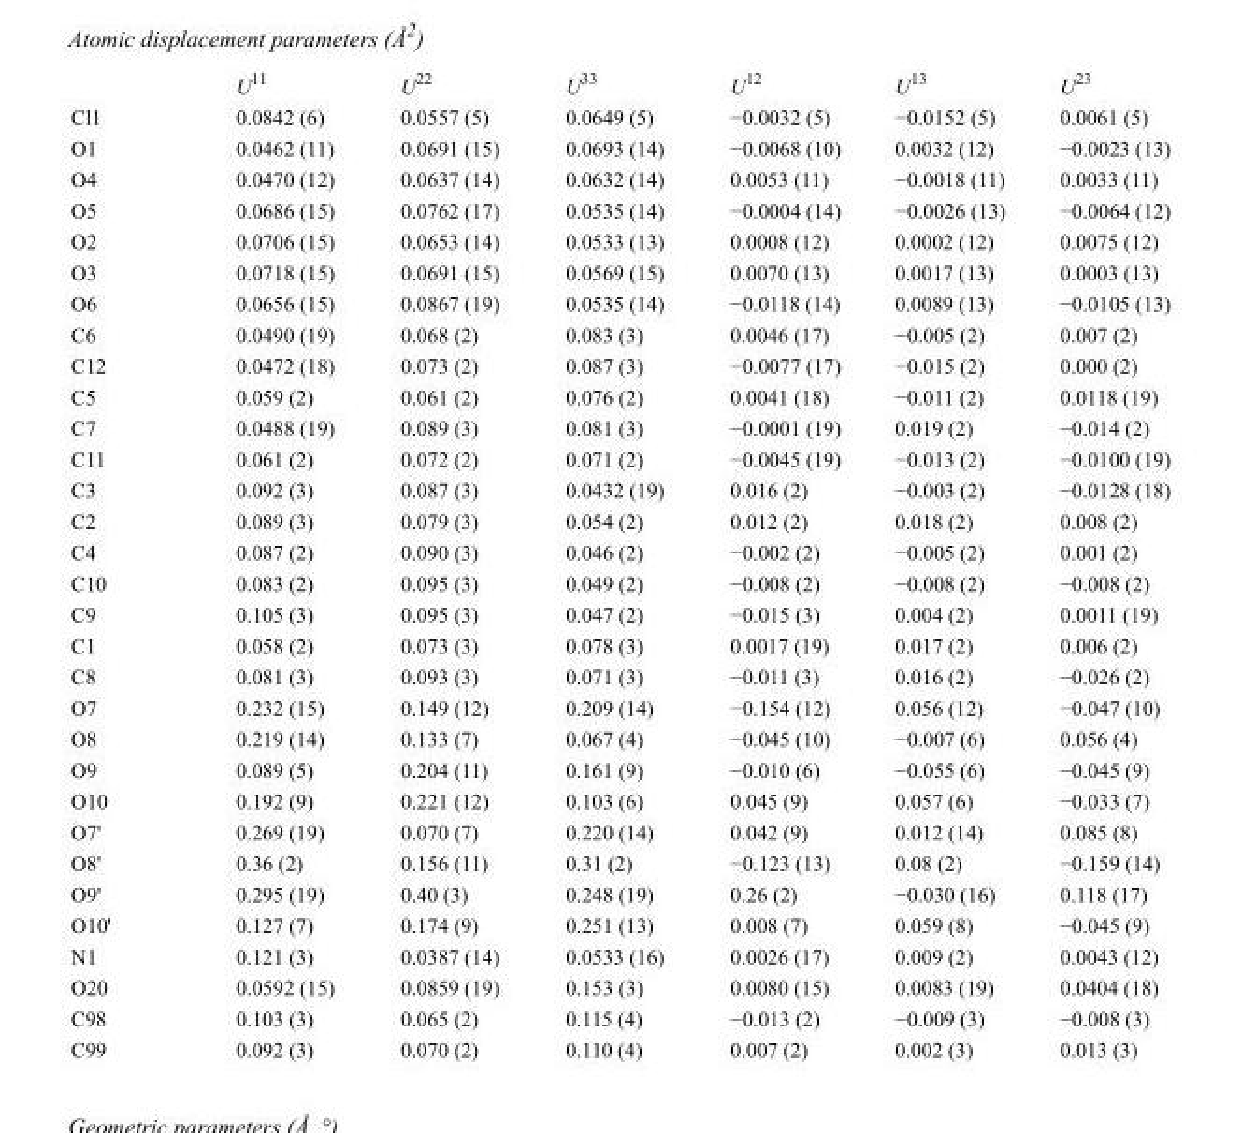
<table><thead><tr><td></td><td>U<sup>11</sup></td><td>U<sup>22</sup></td><td>U<sup>33</sup></td><td>U<sup>12</sup></td><td>U<sup>13</sup></td><td>U<sup>23</sup></td></tr></thead><tbody><tr><td>Cl1</td><td>0.0842 (6)</td><td>0.0557 (5)</td><td>0.0649 (5)</td><td>−0.0032 (5)</td><td>−0.0152 (5)</td><td>0.0061 (5)</td></tr><tr><td>O1</td><td>0.0462 (11)</td><td>0.0691 (15)</td><td>0.0693 (14)</td><td>−0.0068 (10)</td><td>0.0032 (12)</td><td>−0.0023 (13)</td></tr><tr><td>O4</td><td>0.0470 (12)</td><td>0.0637 (14)</td><td>0.0632 (14)</td><td>0.0053 (11)</td><td>−0.0018 (11)</td><td>0.0033 (11)</td></tr><tr><td>O5</td><td>0.0686 (15)</td><td>0.0762 (17)</td><td>0.0535 (14)</td><td>−0.0004 (14)</td><td>−0.0026 (13)</td><td>−0.0064 (12)</td></tr><tr><td>O2</td><td>0.0706 (15)</td><td>0.0653 (14)</td><td>0.0533 (13)</td><td>0.0008 (12)</td><td>0.0002 (12)</td><td>0.0075 (12)</td></tr><tr><td>O3</td><td>0.0718 (15)</td><td>0.0691 (15)</td><td>0.0569 (15)</td><td>0.0070 (13)</td><td>0.0017 (13)</td><td>0.0003 (13)</td></tr><tr><td>O6</td><td>0.0656 (15)</td><td>0.0867 (19)</td><td>0.0535 (14)</td><td>−0.0118 (14)</td><td>0.0089 (13)</td><td>−0.0105 (13)</td></tr><tr><td>C6</td><td>0.0490 (19)</td><td>0.068 (2)</td><td>0.083 (3)</td><td>0.0046 (17)</td><td>−0.005 (2)</td><td>0.007 (2)</td></tr><tr><td>C12</td><td>0.0472 (18)</td><td>0.073 (2)</td><td>0.087 (3)</td><td>−0.0077 (17)</td><td>−0.015 (2)</td><td>0.000 (2)</td></tr><tr><td>C5</td><td>0.059 (2)</td><td>0.061 (2)</td><td>0.076 (2)</td><td>0.0041 (18)</td><td>−0.011 (2)</td><td>0.0118 (19)</td></tr><tr><td>C7</td><td>0.0488 (19)</td><td>0.089 (3)</td><td>0.081 (3)</td><td>−0.0001 (19)</td><td>0.019 (2)</td><td>−0.014 (2)</td></tr><tr><td>C11</td><td>0.061 (2)</td><td>0.072 (2)</td><td>0.071 (2)</td><td>−0.0045 (19)</td><td>−0.013 (2)</td><td>−0.0100 (19)</td></tr><tr><td>C3</td><td>0.092 (3)</td><td>0.087 (3)</td><td>0.0432 (19)</td><td>0.016 (2)</td><td>−0.003 (2)</td><td>−0.0128 (18)</td></tr><tr><td>C2</td><td>0.089 (3)</td><td>0.079 (3)</td><td>0.054 (2)</td><td>0.012 (2)</td><td>0.018 (2)</td><td>0.008 (2)</td></tr><tr><td>C4</td><td>0.087 (2)</td><td>0.090 (3)</td><td>0.046 (2)</td><td>−0.002 (2)</td><td>−0.005 (2)</td><td>0.001 (2)</td></tr><tr><td>C10</td><td>0.083 (2)</td><td>0.095 (3)</td><td>0.049 (2)</td><td>−0.008 (2)</td><td>−0.008 (2)</td><td>−0.008 (2)</td></tr><tr><td>C9</td><td>0.105 (3)</td><td>0.095 (3)</td><td>0.047 (2)</td><td>−0.015 (3)</td><td>0.004 (2)</td><td>0.0011 (19)</td></tr><tr><td>C1</td><td>0.058 (2)</td><td>0.073 (3)</td><td>0.078 (3)</td><td>0.0017 (19)</td><td>0.017 (2)</td><td>0.006 (2)</td></tr><tr><td>C8</td><td>0.081 (3)</td><td>0.093 (3)</td><td>0.071 (3)</td><td>−0.011 (3)</td><td>0.016 (2)</td><td>−0.026 (2)</td></tr><tr><td>O7</td><td>0.232 (15)</td><td>0.149 (12)</td><td>0.209 (14)</td><td>−0.154 (12)</td><td>0.056 (12)</td><td>−0.047 (10)</td></tr><tr><td>O8</td><td>0.219 (14)</td><td>0.133 (7)</td><td>0.067 (4)</td><td>−0.045 (10)</td><td>−0.007 (6)</td><td>0.056 (4)</td></tr><tr><td>O9</td><td>0.089 (5)</td><td>0.204 (11)</td><td>0.161 (9)</td><td>−0.010 (6)</td><td>−0.055 (6)</td><td>−0.045 (9)</td></tr><tr><td>O10</td><td>0.192 (9)</td><td>0.221 (12)</td><td>0.103 (6)</td><td>0.045 (9)</td><td>0.057 (6)</td><td>−0.033 (7)</td></tr><tr><td>O7&#x27;</td><td>0.269 (19)</td><td>0.070 (7)</td><td>0.220 (14)</td><td>0.042 (9)</td><td>0.012 (14)</td><td>0.085 (8)</td></tr><tr><td>O8&#x27;</td><td>0.36 (2)</td><td>0.156 (11)</td><td>0.31 (2)</td><td>−0.123 (13)</td><td>0.08 (2)</td><td>−0.159 (14)</td></tr><tr><td>O9&#x27;</td><td>0.295 (19)</td><td>0.40 (3)</td><td>0.248 (19)</td><td>0.26 (2)</td><td>−0.030 (16)</td><td>0.118 (17)</td></tr><tr><td>O10&#x27;</td><td>0.127 (7)</td><td>0.174 (9)</td><td>0.251 (13)</td><td>0.008 (7)</td><td>0.059 (8)</td><td>−0.045 (9)</td></tr><tr><td>N1</td><td>0.121 (3)</td><td>0.0387 (14)</td><td>0.0533 (16)</td><td>0.0026 (17)</td><td>0.009 (2)</td><td>0.0043 (12)</td></tr><tr><td>O20</td><td>0.0592 (15)</td><td>0.0859 (19)</td><td>0.153 (3)</td><td>0.0080 (15)</td><td>0.0083 (19)</td><td>0.0404 (18)</td></tr><tr><td>C98</td><td>0.103 (3)</td><td>0.065 (2)</td><td>0.115 (4)</td><td>−0.013 (2)</td><td>−0.009 (3)</td><td>−0.008 (3)</td></tr><tr><td>C99</td><td>0.092 (3)</td><td>0.070 (2)</td><td>0.110 (4)</td><td>0.007 (2)</td><td>0.002 (3)</td><td>0.013 (3)</td></tr></tbody></table>